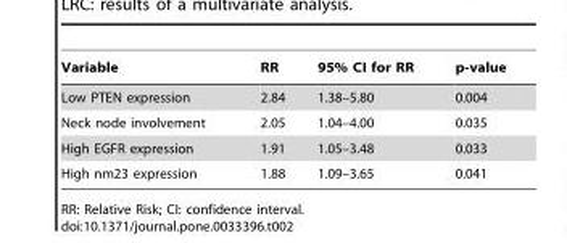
<table><thead><tr><td>Variable</td><td>RR</td><td>95% CI for RR</td><td>p-value</td></tr></thead><tbody><tr><td>Low PTEN expression</td><td>2.84</td><td>1.38–5.80</td><td>0.004</td></tr><tr><td>Neck node involvement</td><td>2.05</td><td>1.04–4.00</td><td>0.035</td></tr><tr><td>High EGFR expression</td><td>1.91</td><td>1.05–3.48</td><td>0.033</td></tr><tr><td>High nm23 expression</td><td>1.88</td><td>1.09–3.65</td><td>0.041</td></tr></tbody></table>